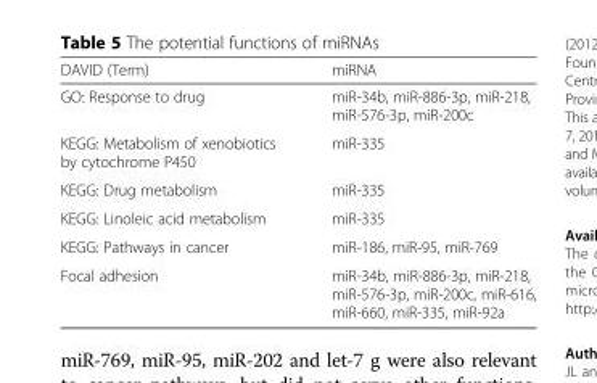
<table><thead><tr><td>DAVID (Term)</td><td>miRNA</td></tr></thead><tbody><tr><td>GO: Response to drug</td><td>miR-34b, miR-886-3p, miR-218, miR-576-3p, miR-200c</td></tr><tr><td>KEGG: Metabolism of xenobiotics by cytochrome P450</td><td>miR-335</td></tr><tr><td>KEGG: Drug metabolism</td><td>miR-335</td></tr><tr><td>KEGG: Linoleic acid metabolism</td><td>miR-335</td></tr><tr><td>KEGG: Pathways in cancer</td><td>miR-186, miR-95, miR-769</td></tr><tr><td>Focal adhesion</td><td>miR-34b, miR-886-3p, miR-218, miR-576-3p, miR-200c, miR-616, miR-660, miR-335, miR-92a</td></tr></tbody></table>